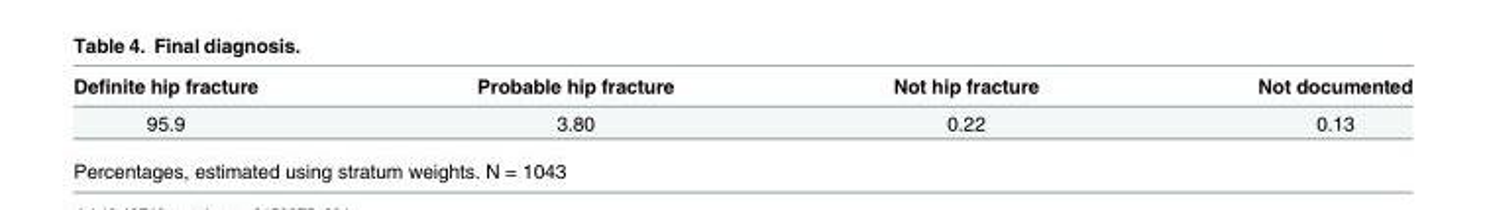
<table><thead><tr><td>Definite hip fracture</td><td>Probable hip fracture</td><td>Not hip fracture</td><td>Not documented</td></tr></thead><tbody><tr><td>95.9</td><td>3.80</td><td>0.22</td><td>0.13</td></tr></tbody></table>